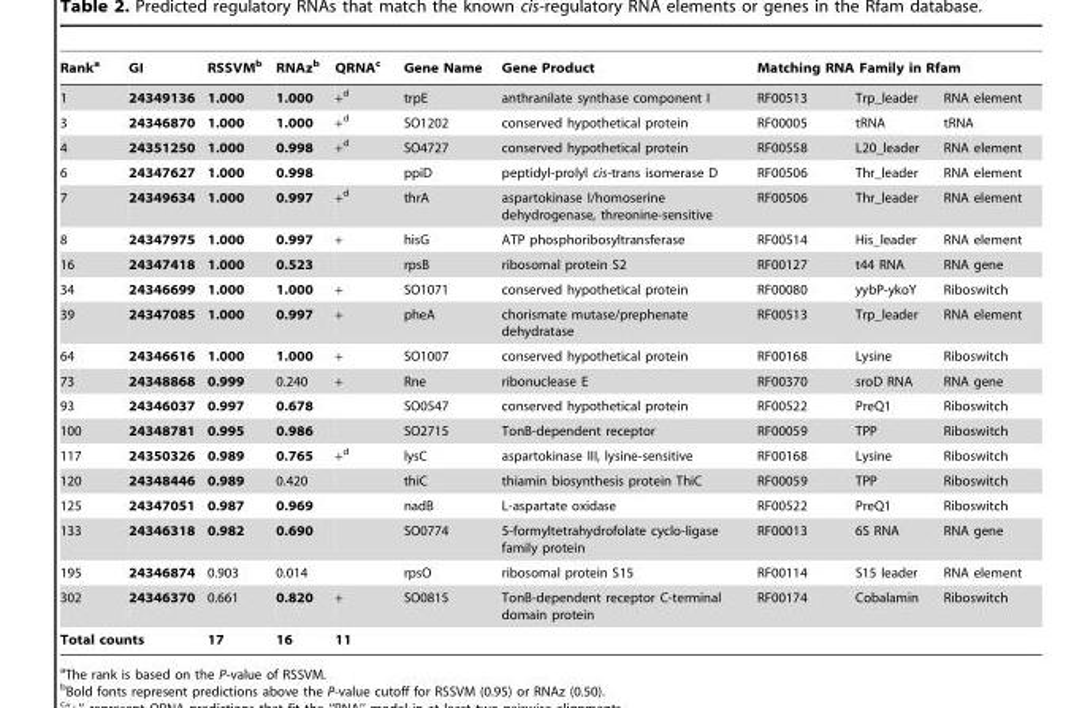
<table><thead><tr><td rowspan="2">Rank<sup>a</sup> 1</td><td rowspan="2">GI 24349136</td><td rowspan="2">RSSVM<sup>b</sup> 1.000</td><td rowspan="2">RNAz<sup>b</sup> 1.000</td><td rowspan="2">QRNA<sup>c</sup> +<sup>d</sup></td><td rowspan="2">Gene Name trpE</td><td rowspan="2">Gene Product anthranilate synthase component I</td><td colspan="3">Matching RNA Family in Rfam</td></tr><tr><td>RF00513</td><td>Trp_leader</td><td>RNA element</td></tr></thead><tbody><tr><td>3</td><td>24346870</td><td>1.000</td><td>1.000</td><td>+<sup>d</sup></td><td>SO1202</td><td>conserved hypothetical protein</td><td>RF00005</td><td>tRNA</td><td>tRNA</td></tr><tr><td>4</td><td>24351250</td><td>1.000</td><td>0.998</td><td>+<sup>d</sup></td><td>SO4727</td><td>conserved hypothetical protein</td><td>RF00558</td><td>L20_leader</td><td>RNA element</td></tr><tr><td>6</td><td>24347627</td><td>1.000</td><td>0.998</td><td></td><td>ppiD</td><td>peptidyl-prolyl cis-trans isomerase D</td><td>RF00506</td><td>Thr_leader</td><td>RNA element</td></tr><tr><td>7</td><td>24349634</td><td>1.000</td><td>0.997</td><td>+<sup>d</sup></td><td>thrA</td><td>aspartokinase I/homoserine dehydrogenase, threonine-sensitive</td><td>RF00506</td><td>Thr_leader</td><td>RNA element</td></tr><tr><td>8</td><td>24347975</td><td>1.000</td><td>0.997</td><td>+</td><td>hisG</td><td>ATP phosphoribosyltransferase</td><td>RF00514</td><td>His_leader</td><td>RNA element</td></tr><tr><td>16</td><td>24347418</td><td>1.000</td><td>0.523</td><td></td><td>rpsB</td><td>ribosomal protein S2</td><td>RF00127</td><td>t44 RNA</td><td>RNA gene</td></tr><tr><td>34</td><td>24346699</td><td>1.000</td><td>1.000</td><td>+</td><td>SO1071</td><td>conserved hypothetical protein</td><td>RF00080</td><td>yybP-ykoY</td><td>Riboswitch</td></tr><tr><td>39</td><td>24347085</td><td>1.000</td><td>0.997</td><td>+</td><td>pheA</td><td>chorismate mutase/prephenate dehydratase</td><td>RF00513</td><td>Trp_leader</td><td>RNA element</td></tr><tr><td>64</td><td>24346616</td><td>1.000</td><td>1.000</td><td>+</td><td>SO1007</td><td>conserved hypothetical protein</td><td>RF00168</td><td>Lysine</td><td>Riboswitch</td></tr><tr><td>73</td><td>24348868</td><td>0.999</td><td>0.240</td><td>+</td><td>Rne</td><td>ribonuclease E</td><td>RF00370</td><td>sroD RNA</td><td>RNA gene</td></tr><tr><td>93</td><td>24346037</td><td>0.997</td><td>0.678</td><td></td><td>SO0547</td><td>conserved hypothetical protein</td><td>RF00522</td><td>PreQ1</td><td>Riboswitch</td></tr><tr><td>100</td><td>24348781</td><td>0.995</td><td>0.986</td><td></td><td>SO2715</td><td>TonB-dependent receptor</td><td>RF00059</td><td>TPP</td><td>Riboswitch</td></tr><tr><td>117</td><td>24350326</td><td>0.989</td><td>0.765</td><td>+<sup>d</sup></td><td>lysC</td><td>aspartokinase III, lysine-sensitive</td><td>RF00168</td><td>Lysine</td><td>Riboswitch</td></tr><tr><td>120</td><td>24348446</td><td>0.989</td><td>0.420</td><td></td><td>thiC</td><td>thiamin biosynthesis protein ThiC</td><td>RF00059</td><td>TPP</td><td>Riboswitch</td></tr><tr><td>125</td><td>24347051</td><td>0.987</td><td>0.969</td><td></td><td>nadB</td><td>L-aspartate oxidase</td><td>RF00522</td><td>PreQ1</td><td>Riboswitch</td></tr><tr><td>133</td><td>24346318</td><td>0.982</td><td>0.690</td><td></td><td>SO0774</td><td>5-formyltetrahydrofolate cyclo-ligase family protein</td><td>RF00013</td><td>6S RNA</td><td>RNA gene</td></tr><tr><td>195</td><td>24346874</td><td>0.903</td><td>0.014</td><td></td><td>rpsO</td><td>ribosomal protein S15</td><td>RF00114</td><td>S15 leader</td><td>RNA element</td></tr><tr><td>302</td><td>24346370</td><td>0.661</td><td>0.820</td><td>+</td><td>SO0815</td><td>TonB-dependent receptor C-terminal domain protein</td><td>RF00174</td><td>Cobalamin</td><td>Riboswitch</td></tr><tr><td colspan="2">Total counts</td><td>17</td><td>16</td><td>11</td><td></td><td></td><td></td><td></td><td></td></tr></tbody></table>